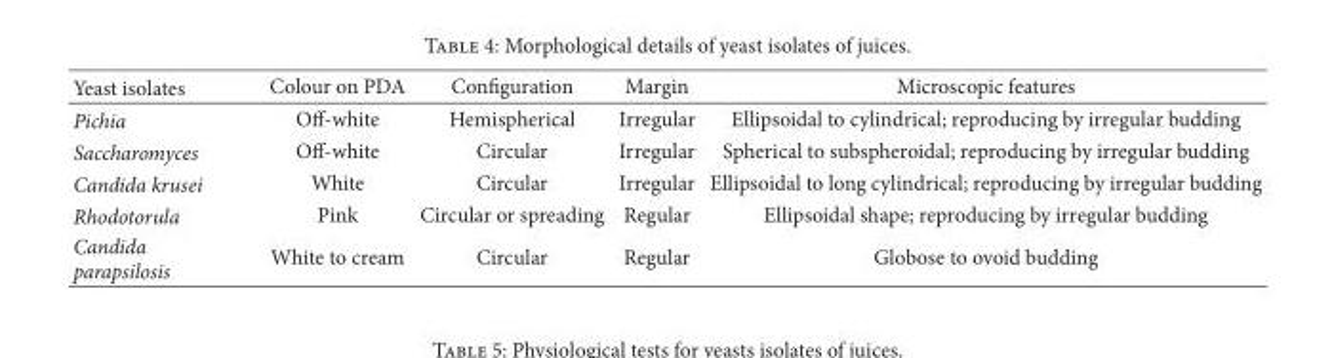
<table><thead><tr><td>Yeast isolates</td><td>Colour on PDA</td><td>Configuration</td><td>Margin</td><td>Microscopic features</td></tr></thead><tbody><tr><td>Pichia</td><td>Off-white</td><td>Hemispherical</td><td>Irregular</td><td>Ellipsoidal to cylindrical; reproducing by irregular budding</td></tr><tr><td>Saccharomyces</td><td>Off-white</td><td>Circular</td><td>Irregular</td><td>Spherical to subspheroidal; reproducing by irregular budding</td></tr><tr><td>Candida krusei</td><td>White</td><td>Circular</td><td>Irregular</td><td>Ellipsoidal to long cylindrical; reproducing by irregular budding</td></tr><tr><td>Rhodotorula</td><td>Pink</td><td>Circular or spreading</td><td>Regular</td><td>Ellipsoidal shape; reproducing by irregular budding</td></tr><tr><td>Candida parapsilosis</td><td>White to cream</td><td>Circular</td><td>Regular</td><td>Globose to ovoid budding</td></tr></tbody></table>